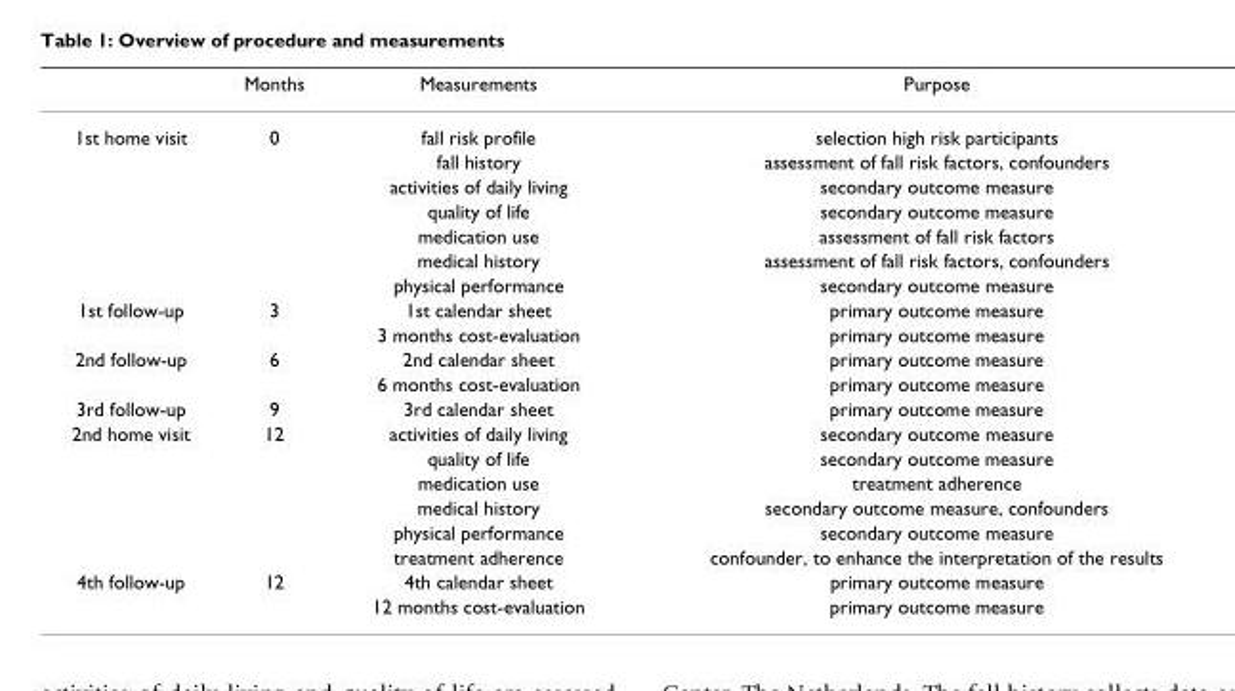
<table><thead><tr><td></td><td>Months</td><td>Measurements</td><td>Purpose</td></tr></thead><tbody><tr><td rowspan="7">1st home visit</td><td>0</td><td>fall risk profile</td><td>selection high risk participants</td></tr><tr><td></td><td>fall history</td><td>assessment of fall risk factors, confounders</td></tr><tr><td></td><td>activities of daily living</td><td>secondary outcome measure</td></tr><tr><td></td><td>quality of life</td><td>secondary outcome measure</td></tr><tr><td></td><td>medication use</td><td>assessment of fall risk factors</td></tr><tr><td></td><td>medical history</td><td>assessment of fall risk factors, confounders</td></tr><tr><td></td><td>physical performance</td><td>secondary outcome measure</td></tr><tr><td rowspan="2">1st follow-up</td><td>3</td><td>1st calendar sheet</td><td>primary outcome measure</td></tr><tr><td></td><td>3 months cost-evaluation</td><td>primary outcome measure</td></tr><tr><td rowspan="2">2nd follow-up</td><td>6</td><td>2nd calendar sheet</td><td>primary outcome measure</td></tr><tr><td></td><td>6 months cost-evaluation</td><td>primary outcome measure</td></tr><tr><td>3rd follow-up</td><td>9</td><td>3rd calendar sheet</td><td>primary outcome measure</td></tr><tr><td rowspan="6">2nd home visit</td><td>12</td><td>activities of daily living</td><td>secondary outcome measure</td></tr><tr><td></td><td>quality of life</td><td>secondary outcome measure</td></tr><tr><td></td><td>medication use</td><td>treatment adherence</td></tr><tr><td></td><td>medical history</td><td>secondary outcome measure, confounders</td></tr><tr><td></td><td>physical performance</td><td>secondary outcome measure</td></tr><tr><td></td><td>treatment adherence</td><td>confounder, to enhance the interpretation of the results</td></tr><tr><td rowspan="2">4th follow-up</td><td>12</td><td>4th calendar sheet</td><td>primary outcome measure</td></tr><tr><td></td><td>12 months cost-evaluation</td><td>primary outcome measure</td></tr></tbody></table>